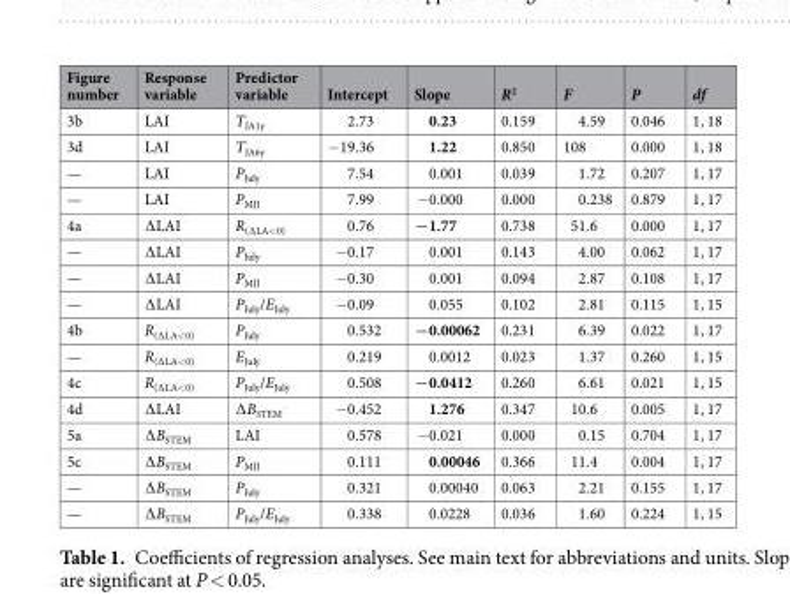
<table><thead><tr><td>Figure number</td><td>Response variable</td><td>Predictor variable</td><td>Intercept</td><td>Slope</td><td>R<sup>2</sup></td><td>F</td><td>P</td><td>df</td></tr></thead><tbody><tr><td>3b</td><td>LAI</td><td>T<sub>JA1y</sub></td><td>2.73</td><td>0.23</td><td>0.159</td><td>4.59</td><td>0.046</td><td>1, 18</td></tr><tr><td>3d</td><td>LAI</td><td>T<sub>JA6y</sub></td><td>−19.36</td><td>1.22</td><td>0.850</td><td>108</td><td>0.000</td><td>1, 18</td></tr><tr><td>—</td><td>LAI</td><td>P<sub>July</sub></td><td>7.54</td><td>0.001</td><td>0.039</td><td>1.72</td><td>0.207</td><td>1, 17</td></tr><tr><td>—</td><td>LAI</td><td>P<sub>MJJ</sub></td><td>7.99</td><td>−0.000</td><td>0.000</td><td>0.238</td><td>0.879</td><td>1, 17</td></tr><tr><td>4a</td><td>∆LAI</td><td>R<sub>(∆LA&lt;0)</sub></td><td>0.76</td><td>−1.77</td><td>0.738</td><td>51.6</td><td>0.000</td><td>1, 17</td></tr><tr><td>—</td><td>∆LAI</td><td>P<sub>July</sub></td><td>−0.17</td><td>0.001</td><td>0.143</td><td>4.00</td><td>0.062</td><td>1, 17</td></tr><tr><td>—</td><td>∆LAI</td><td>P<sub>MJJ</sub></td><td>−0.30</td><td>0.001</td><td>0.094</td><td>2.87</td><td>0.108</td><td>1, 17</td></tr><tr><td>—</td><td>∆LAI</td><td>P<sub>July</sub>/E<sub>July</sub></td><td>−0.09</td><td>0.055</td><td>0.102</td><td>2.81</td><td>0.115</td><td>1, 15</td></tr><tr><td>4b</td><td>R<sub>(∆LA&lt;0)</sub></td><td>P<sub>July</sub></td><td>0.532</td><td>−0.00062</td><td>0.231</td><td>6.39</td><td>0.022</td><td>1, 17</td></tr><tr><td>—</td><td>R<sub>(∆LA&lt;0)</sub></td><td>E<sub>July</sub></td><td>0.219</td><td>0.0012</td><td>0.023</td><td>1.37</td><td>0.260</td><td>1, 15</td></tr><tr><td>4c</td><td>R<sub>(∆LA&lt;0)</sub></td><td>P<sub>July</sub>/E<sub>July</sub></td><td>0.508</td><td>−0.0412</td><td>0.260</td><td>6.61</td><td>0.021</td><td>1, 15</td></tr><tr><td>4d</td><td>∆LAI</td><td>∆B<sub>STEM</sub></td><td>−0.452</td><td>1.276</td><td>0.347</td><td>10.6</td><td>0.005</td><td>1, 17</td></tr><tr><td>5a</td><td>∆B<sub>STEM</sub></td><td>LAI</td><td>0.578</td><td>−0.021</td><td>0.000</td><td>0.15</td><td>0.704</td><td>1, 17</td></tr><tr><td>5c</td><td>∆B<sub>STEM</sub></td><td>P<sub>MJJ</sub></td><td>0.111</td><td>0.00046</td><td>0.366</td><td>11.4</td><td>0.004</td><td>1, 17</td></tr><tr><td>—</td><td>∆B<sub>STEM</sub></td><td>P<sub>July</sub></td><td>0.321</td><td>0.00040</td><td>0.063</td><td>2.21</td><td>0.155</td><td>1, 17</td></tr><tr><td>—</td><td>∆B<sub>STEM</sub></td><td>P<sub>July</sub>/E<sub>July</sub></td><td>0.338</td><td>0.0228</td><td>0.036</td><td>1.60</td><td>0.224</td><td>1, 15</td></tr></tbody></table>